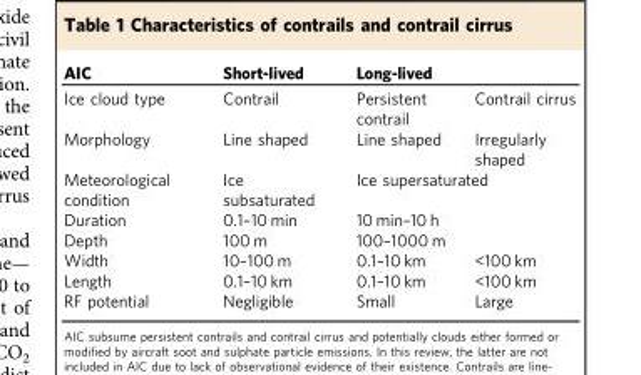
<table><thead><tr><td rowspan="2">AIC Ice cloud type</td><td rowspan="2">Short-lived Contrail</td><td colspan="2">Long-lived</td></tr><tr><td>Persistent contrail</td><td>Contrail cirrus</td></tr></thead><tbody><tr><td>Morphology</td><td>Line shaped</td><td>Line shaped</td><td>Irregularly shaped</td></tr><tr><td>Meteorological condition</td><td>Ice subsaturated</td><td colspan="2">Ice supersaturated</td></tr><tr><td>Duration</td><td>0.1–10 min</td><td colspan="2">10 min–10 h</td></tr><tr><td>Depth</td><td>100 m</td><td colspan="2">100–1000 m</td></tr><tr><td>Width</td><td>10–100 m</td><td>0.1–10 km</td><td>&lt;100 km</td></tr><tr><td>Length</td><td>0.1–10 km</td><td>0.1–10 km</td><td>&lt;100 km</td></tr><tr><td>RF potential</td><td>Negligible</td><td>Small</td><td>Large</td></tr></tbody></table>